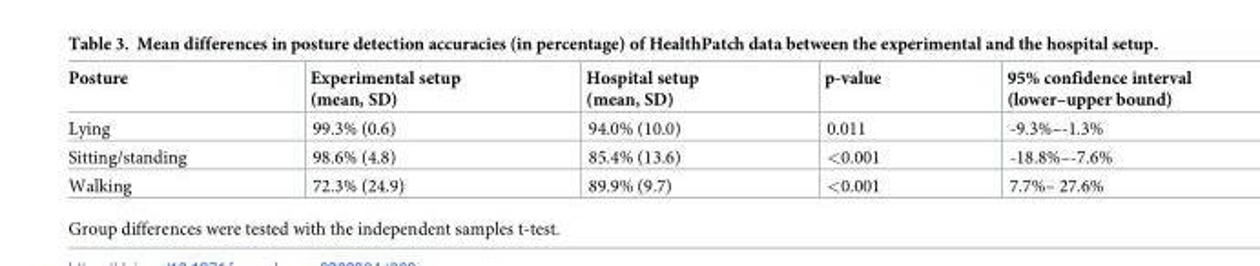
<table><thead><tr><td>Posture</td><td>Experimental setup (mean, SD)</td><td>Hospital setup (mean, SD)</td><td>p-value</td><td>95% confidence interval (lower–upper bound)</td></tr></thead><tbody><tr><td>Lying</td><td>99.3% (0.6)</td><td>94.0% (10.0)</td><td>0.011</td><td>-9.3%–-1.3%</td></tr><tr><td>Sitting/standing</td><td>98.6% (4.8)</td><td>85.4% (13.6)</td><td>&lt;0.001</td><td>-18.8%–-7.6%</td></tr><tr><td>Walking</td><td>72.3% (24.9)</td><td>89.9% (9.7)</td><td>&lt;0.001</td><td>7.7%– 27.6%</td></tr></tbody></table>